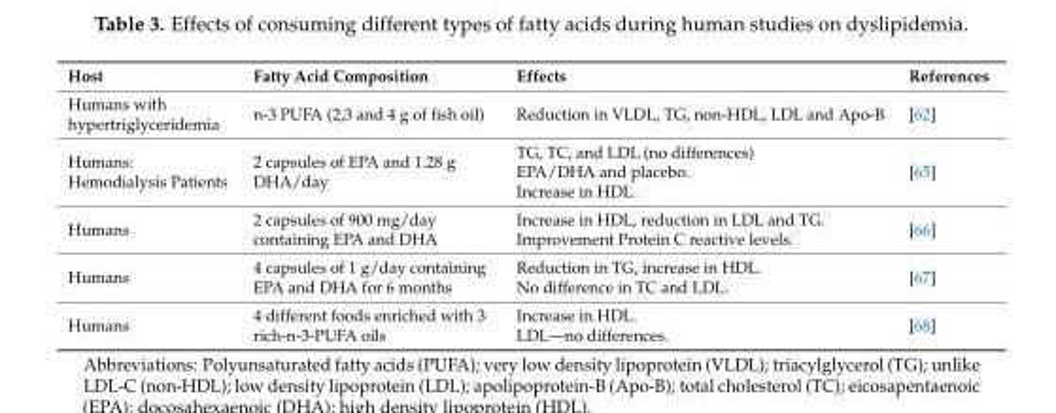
<table><thead><tr><td>Host</td><td>Fatty Acid Composition</td><td>Effects</td><td>References</td></tr></thead><tbody><tr><td>Humans with hypertriglyceridemia</td><td>n-3 PUFA (2,3 and 4 g of fish oil)</td><td>Reduction in VLDL, TG, non-HDL, LDL and Apo-B</td><td>[62]</td></tr><tr><td>Humans: Hemodialysis Patients</td><td>2 capsules of EPA and 1.28 g DHA/day</td><td>TG, TC, and LDL (no differences) EPA/DHA and placebo. Increase in HDL.</td><td>[65]</td></tr><tr><td>Humans</td><td>2 capsules of 900 mg/day containing EPA and DHA</td><td>Increase in HDL, reduction in LDL and TG. Improvement Protein C reactive levels.</td><td>[66]</td></tr><tr><td>Humans</td><td>4 capsules of 1 g/day containing EPA and DHA for 6 months</td><td>Reduction in TG, increase in HDL. No difference in TC and LDL.</td><td>[67]</td></tr><tr><td>Humans</td><td>4 different foods enriched with 3 rich-n-3-PUFA oils</td><td>Increase in HDL. LDL—no differences.</td><td>[68]</td></tr></tbody></table>